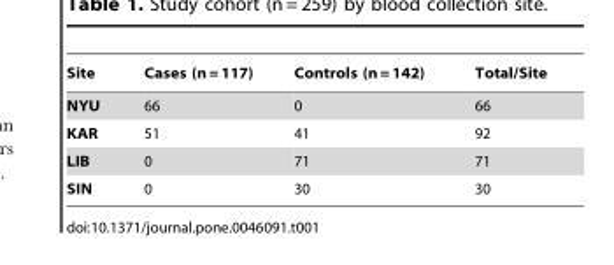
<table><thead><tr><td>Site</td><td>Cases (n = 117)</td><td>Controls (n = 142)</td><td>Total/Site</td></tr></thead><tbody><tr><td>NYU</td><td>66</td><td>0</td><td>66</td></tr><tr><td>KAR</td><td>51</td><td>41</td><td>92</td></tr><tr><td>LIB</td><td>0</td><td>71</td><td>71</td></tr><tr><td>SIN</td><td>0</td><td>30</td><td>30</td></tr></tbody></table>